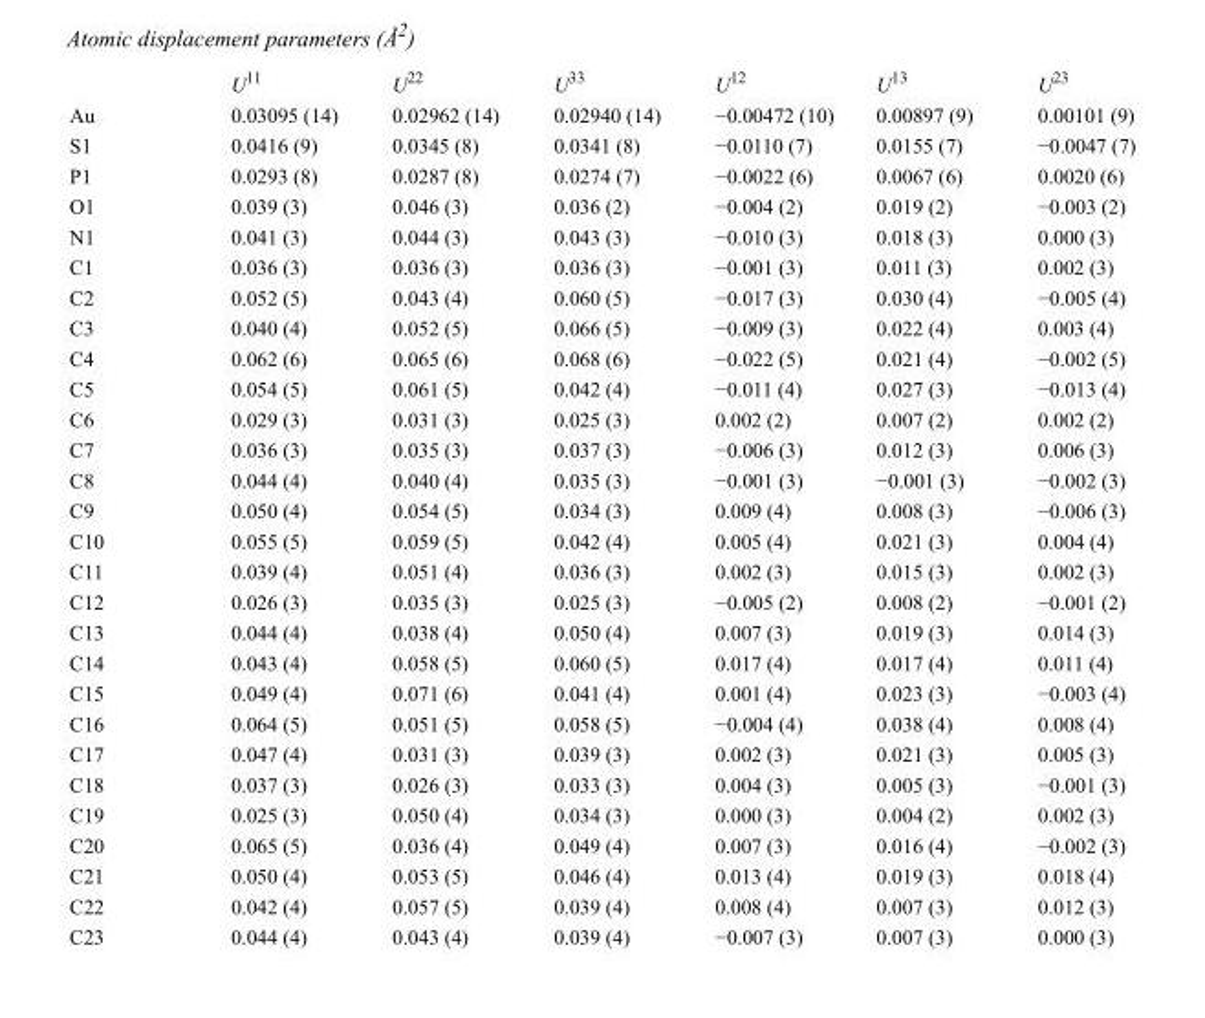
<table><thead><tr><td></td><td>U<sup>11</sup></td><td>U<sup>22</sup></td><td>U<sup>33</sup></td><td>U<sup>12</sup></td><td>U<sup>13</sup></td><td>U<sup>23</sup></td></tr></thead><tbody><tr><td>Au</td><td>0.03095 (14)</td><td>0.02962 (14)</td><td>0.02940 (14)</td><td>−0.00472 (10)</td><td>0.00897 (9)</td><td>0.00101 (9)</td></tr><tr><td>S1</td><td>0.0416 (9)</td><td>0.0345 (8)</td><td>0.0341 (8)</td><td>−0.0110 (7)</td><td>0.0155 (7)</td><td>−0.0047 (7)</td></tr><tr><td>P1</td><td>0.0293 (8)</td><td>0.0287 (8)</td><td>0.0274 (7)</td><td>−0.0022 (6)</td><td>0.0067 (6)</td><td>0.0020 (6)</td></tr><tr><td>O1</td><td>0.039 (3)</td><td>0.046 (3)</td><td>0.036 (2)</td><td>−0.004 (2)</td><td>0.019 (2)</td><td>−0.003 (2)</td></tr><tr><td>N1</td><td>0.041 (3)</td><td>0.044 (3)</td><td>0.043 (3)</td><td>−0.010 (3)</td><td>0.018 (3)</td><td>0.000 (3)</td></tr><tr><td>C1</td><td>0.036 (3)</td><td>0.036 (3)</td><td>0.036 (3)</td><td>−0.001 (3)</td><td>0.011 (3)</td><td>0.002 (3)</td></tr><tr><td>C2</td><td>0.052 (5)</td><td>0.043 (4)</td><td>0.060 (5)</td><td>−0.017 (3)</td><td>0.030 (4)</td><td>−0.005 (4)</td></tr><tr><td>C3</td><td>0.040 (4)</td><td>0.052 (5)</td><td>0.066 (5)</td><td>−0.009 (3)</td><td>0.022 (4)</td><td>0.003 (4)</td></tr><tr><td>C4</td><td>0.062 (6)</td><td>0.065 (6)</td><td>0.068 (6)</td><td>−0.022 (5)</td><td>0.021 (4)</td><td>−0.002 (5)</td></tr><tr><td>C5</td><td>0.054 (5)</td><td>0.061 (5)</td><td>0.042 (4)</td><td>−0.011 (4)</td><td>0.027 (3)</td><td>−0.013 (4)</td></tr><tr><td>C6</td><td>0.029 (3)</td><td>0.031 (3)</td><td>0.025 (3)</td><td>0.002 (2)</td><td>0.007 (2)</td><td>0.002 (2)</td></tr><tr><td>C7</td><td>0.036 (3)</td><td>0.035 (3)</td><td>0.037 (3)</td><td>−0.006 (3)</td><td>0.012 (3)</td><td>0.006 (3)</td></tr><tr><td>C8</td><td>0.044 (4)</td><td>0.040 (4)</td><td>0.035 (3)</td><td>−0.001 (3)</td><td>−0.001 (3)</td><td>−0.002 (3)</td></tr><tr><td>C9</td><td>0.050 (4)</td><td>0.054 (5)</td><td>0.034 (3)</td><td>0.009 (4)</td><td>0.008 (3)</td><td>−0.006 (3)</td></tr><tr><td>C10</td><td>0.055 (5)</td><td>0.059 (5)</td><td>0.042 (4)</td><td>0.005 (4)</td><td>0.021 (3)</td><td>0.004 (4)</td></tr><tr><td>C11</td><td>0.039 (4)</td><td>0.051 (4)</td><td>0.036 (3)</td><td>0.002 (3)</td><td>0.015 (3)</td><td>0.002 (3)</td></tr><tr><td>C12</td><td>0.026 (3)</td><td>0.035 (3)</td><td>0.025 (3)</td><td>−0.005 (2)</td><td>0.008 (2)</td><td>−0.001 (2)</td></tr><tr><td>C13</td><td>0.044 (4)</td><td>0.038 (4)</td><td>0.050 (4)</td><td>0.007 (3)</td><td>0.019 (3)</td><td>0.014 (3)</td></tr><tr><td>C14</td><td>0.043 (4)</td><td>0.058 (5)</td><td>0.060 (5)</td><td>0.017 (4)</td><td>0.017 (4)</td><td>0.011 (4)</td></tr><tr><td>C15</td><td>0.049 (4)</td><td>0.071 (6)</td><td>0.041 (4)</td><td>0.001 (4)</td><td>0.023 (3)</td><td>−0.003 (4)</td></tr><tr><td>C16</td><td>0.064 (5)</td><td>0.051 (5)</td><td>0.058 (5)</td><td>−0.004 (4)</td><td>0.038 (4)</td><td>0.008 (4)</td></tr><tr><td>C17</td><td>0.047 (4)</td><td>0.031 (3)</td><td>0.039 (3)</td><td>0.002 (3)</td><td>0.021 (3)</td><td>0.005 (3)</td></tr><tr><td>C18</td><td>0.037 (3)</td><td>0.026 (3)</td><td>0.033 (3)</td><td>0.004 (3)</td><td>0.005 (3)</td><td>−0.001 (3)</td></tr><tr><td>C19</td><td>0.025 (3)</td><td>0.050 (4)</td><td>0.034 (3)</td><td>0.000 (3)</td><td>0.004 (2)</td><td>0.002 (3)</td></tr><tr><td>C20</td><td>0.065 (5)</td><td>0.036 (4)</td><td>0.049 (4)</td><td>0.007 (3)</td><td>0.016 (4)</td><td>−0.002 (3)</td></tr><tr><td>C21</td><td>0.050 (4)</td><td>0.053 (5)</td><td>0.046 (4)</td><td>0.013 (4)</td><td>0.019 (3)</td><td>0.018 (4)</td></tr><tr><td>C22</td><td>0.042 (4)</td><td>0.057 (5)</td><td>0.039 (4)</td><td>0.008 (4)</td><td>0.007 (3)</td><td>0.012 (3)</td></tr><tr><td>C23</td><td>0.044 (4)</td><td>0.043 (4)</td><td>0.039 (4)</td><td>−0.007 (3)</td><td>0.007 (3)</td><td>0.000 (3)</td></tr></tbody></table>